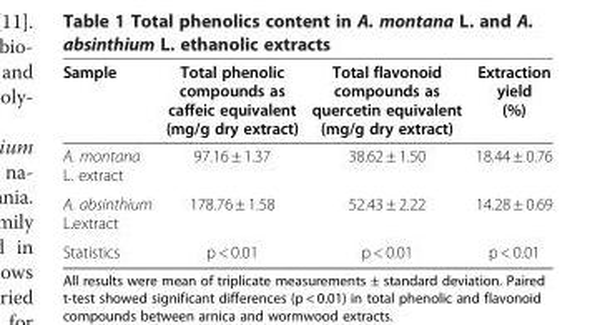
<table><thead><tr><td>Sample</td><td>Total phenolic compounds as caffeic equivalent (mg/g dry extract)</td><td>Total flavonoid compounds as quercetin equivalent (mg/g dry extract)</td><td>Extraction yield (%)</td></tr></thead><tbody><tr><td>A. montana L. extract</td><td>97.16 ± 1.37</td><td>38.62 ± 1.50</td><td>18.44 ± 0.76</td></tr><tr><td>A. absinthium L.extract</td><td>178.76 ± 1.58</td><td>52.43 ± 2.22</td><td>14.28 ± 0.69</td></tr><tr><td>Statistics</td><td>p &lt; 0.01</td><td>p &lt; 0.01</td><td>p &lt; 0.01</td></tr></tbody></table>